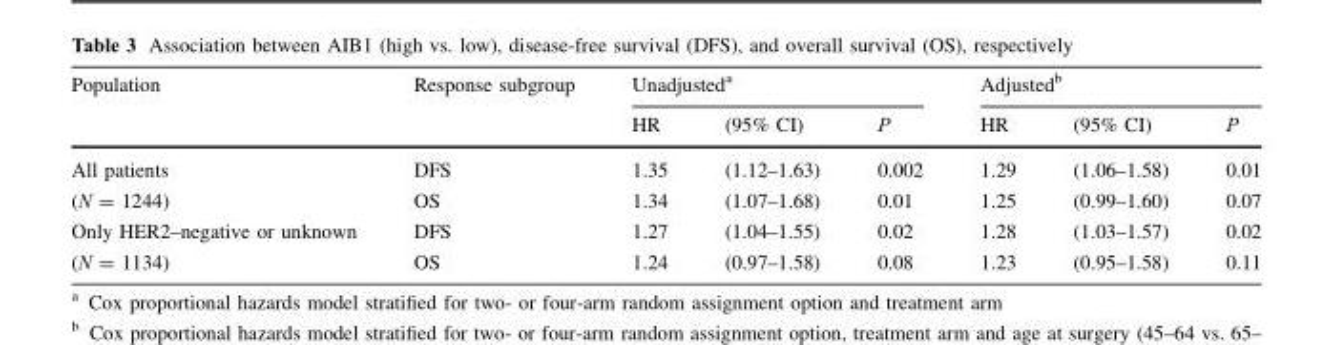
<table><thead><tr><td rowspan="2">Population</td><td rowspan="2">Response subgroup</td><td colspan="3">Unadjusted<sup>a</sup></td><td colspan="3">Adjusted<sup>b</sup></td></tr><tr><td>HR</td><td>(95% CI)</td><td>P</td><td>HR</td><td>(95% CI)</td><td>P</td></tr></thead><tbody><tr><td>All patients</td><td>DFS</td><td>1.35</td><td>(1.12–1.63)</td><td>0.002</td><td>1.29</td><td>(1.06–1.58)</td><td>0.01</td></tr><tr><td>(N = 1244)</td><td>OS</td><td>1.34</td><td>(1.07–1.68)</td><td>0.01</td><td>1.25</td><td>(0.99–1.60)</td><td>0.07</td></tr><tr><td>Only HER2–negative or unknown</td><td>DFS</td><td>1.27</td><td>(1.04–1.55)</td><td>0.02</td><td>1.28</td><td>(1.03–1.57)</td><td>0.02</td></tr><tr><td>(N = 1134)</td><td>OS</td><td>1.24</td><td>(0.97–1.58)</td><td>0.08</td><td>1.23</td><td>(0.95–1.58)</td><td>0.11</td></tr></tbody></table>